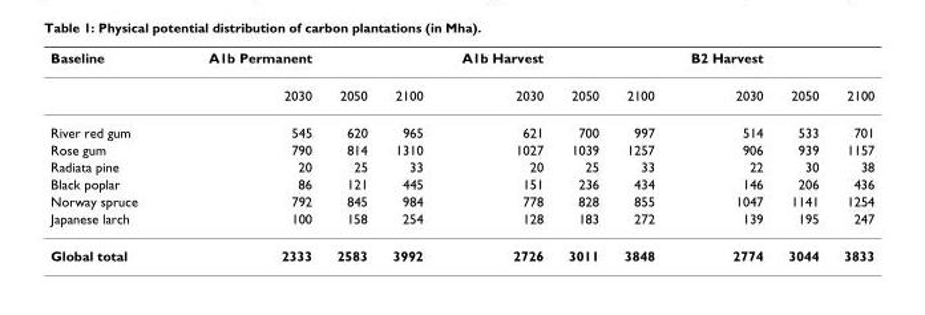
<table><thead><tr><td>Baseline</td><td>A1b Permanent</td><td></td><td></td><td>A1b Harvest</td><td></td><td></td><td>B2 Harvest</td><td></td><td></td></tr></thead><tbody><tr><td></td><td>2030</td><td>2050</td><td>2100</td><td>2030</td><td>2050</td><td>2100</td><td>2030</td><td>2050</td><td>2100</td></tr><tr><td>River red gum</td><td>545</td><td>620</td><td>965</td><td>621</td><td>700</td><td>997</td><td>514</td><td>533</td><td>701</td></tr><tr><td>Rose gum</td><td>790</td><td>814</td><td>1310</td><td>1027</td><td>1039</td><td>1257</td><td>906</td><td>939</td><td>1157</td></tr><tr><td>Radiata pine</td><td>20</td><td>25</td><td>33</td><td>20</td><td>25</td><td>33</td><td>22</td><td>30</td><td>38</td></tr><tr><td>Black poplar</td><td>86</td><td>121</td><td>445</td><td>151</td><td>236</td><td>434</td><td>146</td><td>206</td><td>436</td></tr><tr><td>Norway spruce</td><td>792</td><td>845</td><td>984</td><td>778</td><td>828</td><td>855</td><td>1047</td><td>1141</td><td>1254</td></tr><tr><td>Japanese larch</td><td>100</td><td>158</td><td>254</td><td>128</td><td>183</td><td>272</td><td>139</td><td>195</td><td>247</td></tr><tr><td>Global total</td><td>2333</td><td>2583</td><td>3992</td><td>2726</td><td>3011</td><td>3848</td><td>2774</td><td>3044</td><td>3833</td></tr></tbody></table>